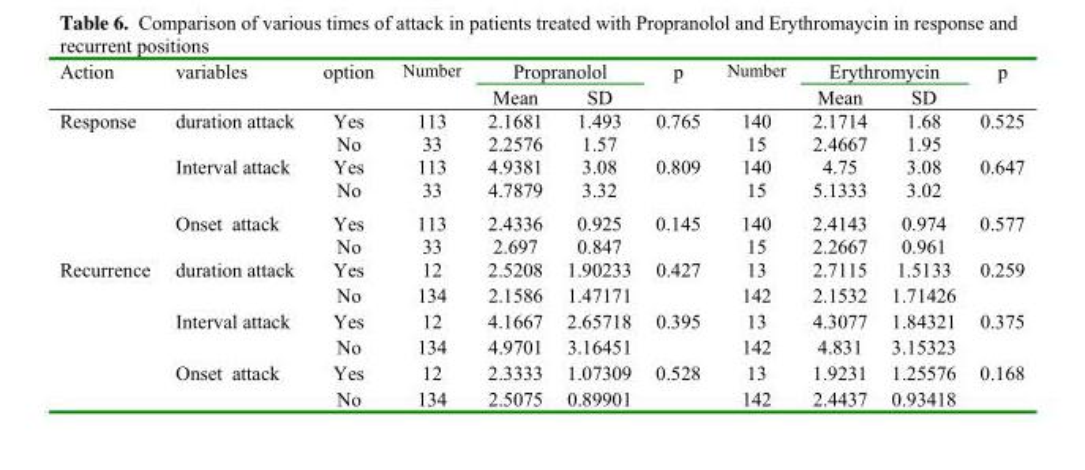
<table><thead><tr><td rowspan="2">Action</td><td rowspan="2">variables</td><td rowspan="2">option</td><td rowspan="2">Number</td><td colspan="2">Propranolol</td><td rowspan="2">p</td><td rowspan="2">Number</td><td colspan="2">Erythromycin</td><td rowspan="2">p</td></tr><tr><td>Mean</td><td>SD</td><td>Mean</td><td>SD</td></tr></thead><tbody><tr><td rowspan="6">Response</td><td rowspan="2">duration attack</td><td>Yes</td><td>113</td><td>2.1681</td><td>1.493</td><td rowspan="2">0.765</td><td>140</td><td>2.1714</td><td>1.68</td><td rowspan="2">0.525</td></tr><tr><td>No</td><td>33</td><td>2.2576</td><td>1.57</td><td>15</td><td>2.4667</td><td>1.95</td></tr><tr><td rowspan="2">Interval attack</td><td>Yes</td><td>113</td><td>4.9381</td><td>3.08</td><td rowspan="2">0.809</td><td>140</td><td>4.75</td><td>3.08</td><td rowspan="2">0.647</td></tr><tr><td>No</td><td>33</td><td>4.7879</td><td>3.32</td><td>15</td><td>5.1333</td><td>3.02</td></tr><tr><td rowspan="2">Onset attack</td><td>Yes</td><td>113</td><td>2.4336</td><td>0.925</td><td rowspan="2">0.145</td><td>140</td><td>2.4143</td><td>0.974</td><td rowspan="2">0.577</td></tr><tr><td>No</td><td>33</td><td>2.697</td><td>0.847</td><td>15</td><td>2.2667</td><td>0.961</td></tr><tr><td rowspan="6">Recurrence</td><td rowspan="2">duration attack</td><td>Yes</td><td>12</td><td>2.5208</td><td>1.90233</td><td rowspan="2">0.427</td><td>13</td><td>2.7115</td><td>1.5133</td><td rowspan="2">0.259</td></tr><tr><td>No</td><td>134</td><td>2.1586</td><td>1.47171</td><td>142</td><td>2.1532</td><td>1.71426</td></tr><tr><td rowspan="2">Interval attack</td><td>Yes</td><td>12</td><td>4.1667</td><td>2.65718</td><td rowspan="2">0.395</td><td>13</td><td>4.3077</td><td>1.84321</td><td rowspan="2">0.375</td></tr><tr><td>No</td><td>134</td><td>4.9701</td><td>3.16451</td><td>142</td><td>4.831</td><td>3.15323</td></tr><tr><td rowspan="2">Onset attack</td><td>Yes</td><td>12</td><td>2.3333</td><td>1.07309</td><td rowspan="2">0.528</td><td>13</td><td>1.9231</td><td>1.25576</td><td rowspan="2">0.168</td></tr><tr><td>No</td><td>134</td><td>2.5075</td><td>0.89901</td><td>142</td><td>2.4437</td><td>0.93418</td></tr></tbody></table>